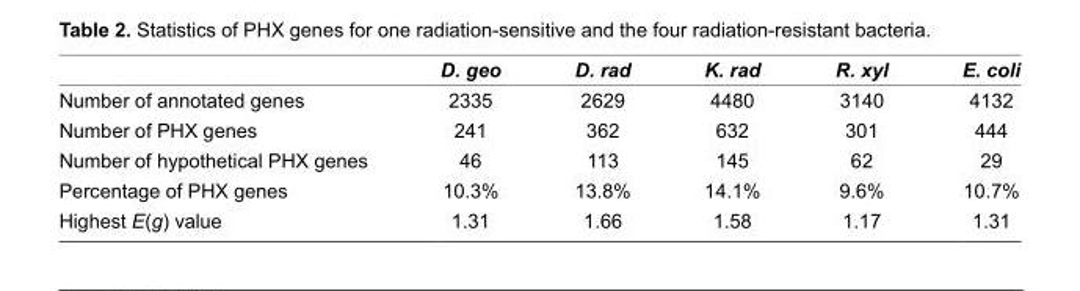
<table><thead><tr><td></td><td>D. geo</td><td>D. rad</td><td>K. rad</td><td>R. xyl</td><td>E. coli</td></tr></thead><tbody><tr><td>number of annotated genes</td><td>2335</td><td>2629</td><td>4480</td><td>3140</td><td>4132</td></tr><tr><td>number of PhX genes</td><td>241</td><td>362</td><td>632</td><td>301</td><td>444</td></tr><tr><td>number of hypothetical PhX genes</td><td>46</td><td>113</td><td>145</td><td>62</td><td>29</td></tr><tr><td>Percentage of PhX genes</td><td>10.3%</td><td>13.8%</td><td>14.1%</td><td>9.6%</td><td>10.7%</td></tr><tr><td>highest E(g) value</td><td>1.31</td><td>1.66</td><td>1.58</td><td>1.17</td><td>1.31</td></tr></tbody></table>